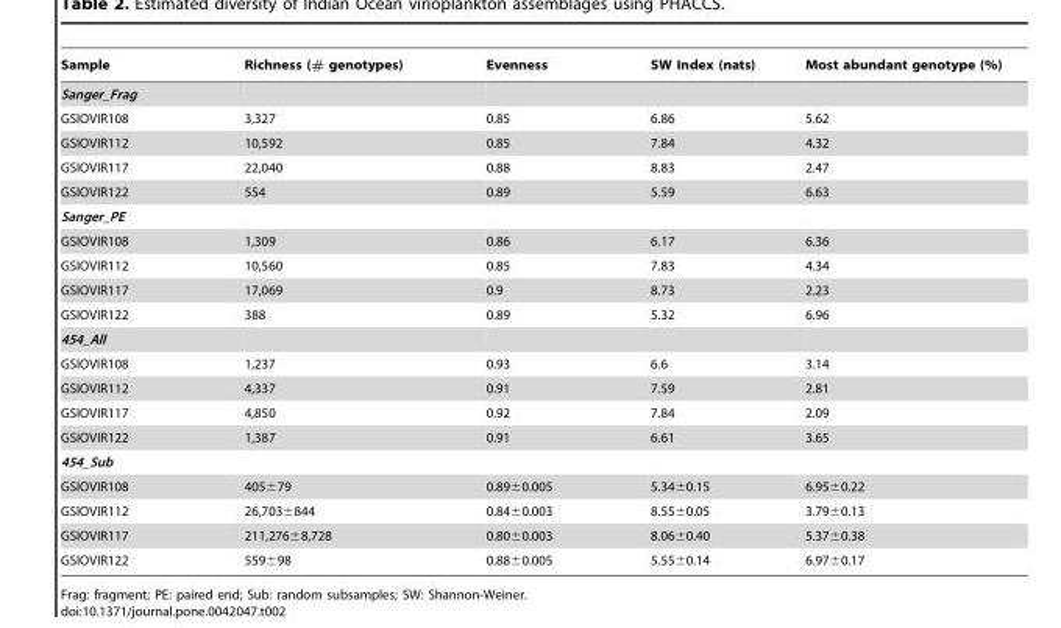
<table><thead><tr><td>Sample</td><td>Richness (# genotypes)</td><td>Evenness</td><td>SW Index (nats)</td><td>Most abundant genotype (%)</td></tr></thead><tbody><tr><td colspan="5">Sanger_Frag</td></tr><tr><td>GSIOVIR108</td><td>3,327</td><td>0.85</td><td>6.86</td><td>5.62</td></tr><tr><td>GSIOVIR112</td><td>10,592</td><td>0.85</td><td>7.84</td><td>4.32</td></tr><tr><td>GSIOVIR117</td><td>22,040</td><td>0.88</td><td>8.83</td><td>2.47</td></tr><tr><td>GSIOVIR122</td><td>554</td><td>0.89</td><td>5.59</td><td>6.63</td></tr><tr><td colspan="5">Sanger_PE</td></tr><tr><td>GSIOVIR108</td><td>1,309</td><td>0.86</td><td>6.17</td><td>6.36</td></tr><tr><td>GSIOVIR112</td><td>10,560</td><td>0.85</td><td>7.83</td><td>4.34</td></tr><tr><td>GSIOVIR117</td><td>17,069</td><td>0.9</td><td>8.73</td><td>2.23</td></tr><tr><td>GSIOVIR122</td><td>388</td><td>0.89</td><td>5.32</td><td>6.96</td></tr><tr><td colspan="5">454_All</td></tr><tr><td>GSIOVIR108</td><td>1,237</td><td>0.93</td><td>6.6</td><td>3.14</td></tr><tr><td>GSIOVIR112</td><td>4,337</td><td>0.91</td><td>7.59</td><td>2.81</td></tr><tr><td>GSIOVIR117</td><td>4,850</td><td>0.92</td><td>7.84</td><td>2.09</td></tr><tr><td>GSIOVIR122</td><td>1,387</td><td>0.91</td><td>6.61</td><td>3.65</td></tr><tr><td colspan="5">454_Sub</td></tr><tr><td>GSIOVIR108</td><td>405±79</td><td>0.89±0.005</td><td>5.34±0.15</td><td>6.95±0.22</td></tr><tr><td>GSIOVIR112</td><td>26,703±844</td><td>0.84±0.003</td><td>8.55±0.05</td><td>3.79±0.13</td></tr><tr><td>GSIOVIR117</td><td>211,276±8,728</td><td>0.80±0.003</td><td>8.06±0.40</td><td>5.37±0.38</td></tr><tr><td>GSIOVIR122</td><td>559±98</td><td>0.88±0.005</td><td>5.55±0.14</td><td>6.97±0.17</td></tr></tbody></table>